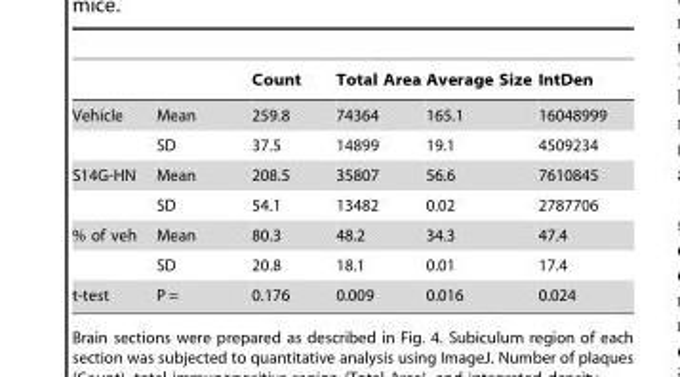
<table><thead><tr><td></td><td></td><td>Count</td><td>Total Area</td><td>Average Size</td><td>IntDen</td></tr></thead><tbody><tr><td rowspan="2">Vehicle</td><td>Mean</td><td>259.8</td><td>74364</td><td>165.1</td><td>16048999</td></tr><tr><td>SD</td><td>37.5</td><td>14899</td><td>19.1</td><td>4509234</td></tr><tr><td rowspan="2">S14G-HN</td><td>Mean</td><td>208.5</td><td>35807</td><td>56.6</td><td>7610845</td></tr><tr><td>SD</td><td>54.1</td><td>13482</td><td>0.02</td><td>2787706</td></tr><tr><td rowspan="2">% of veh</td><td>Mean</td><td>80.3</td><td>48.2</td><td>34.3</td><td>47.4</td></tr><tr><td>SD</td><td>20.8</td><td>18.1</td><td>0.01</td><td>17.4</td></tr><tr><td>t-test</td><td>P =</td><td>0.176</td><td>0.009</td><td>0.016</td><td>0.024</td></tr></tbody></table>